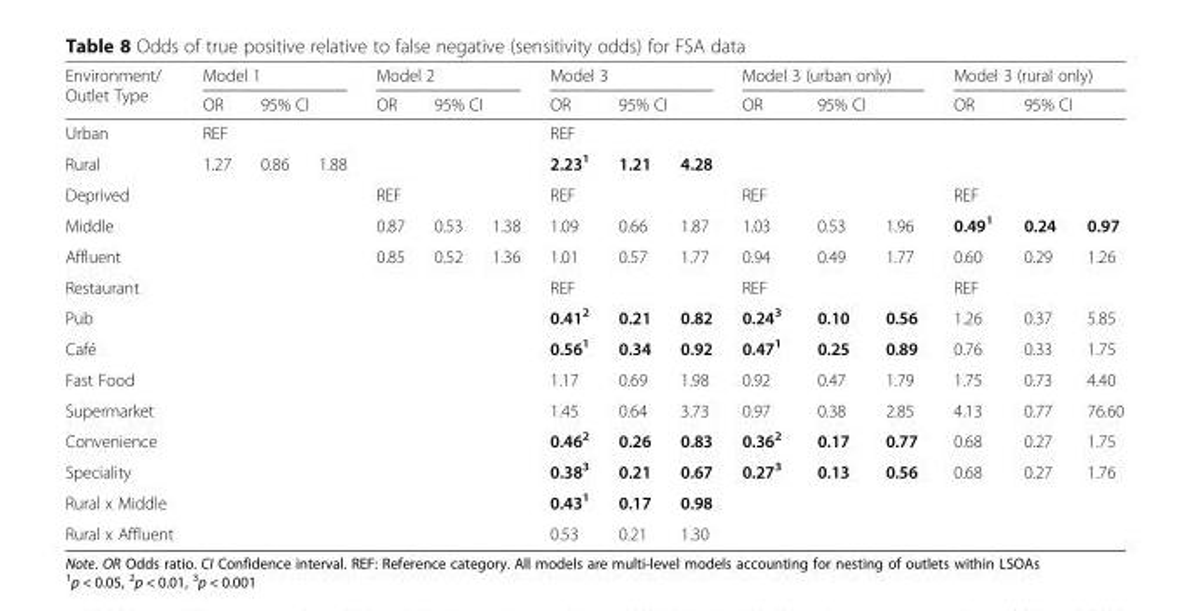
<table><thead><tr><td rowspan="3">Environment/ Outlet Type Urban</td><td colspan="3">Model 1</td><td colspan="3">Model 2</td><td colspan="3">Model 3</td><td colspan="3">Model 3 (urban only)</td><td colspan="3">Model 3 (rural only)</td></tr><tr><td rowspan="2">OR REF</td><td colspan="2">95% CI</td><td rowspan="2">OR</td><td colspan="2">95% CI</td><td rowspan="2">OR REF</td><td colspan="2">95% CI</td><td rowspan="2">OR</td><td colspan="2">95% CI</td><td rowspan="2">OR</td><td colspan="2">95% CI</td></tr><tr><td></td><td></td><td></td><td></td><td></td><td></td><td></td><td></td><td></td><td></td></tr></thead><tbody><tr><td>Rural</td><td>1.27</td><td>0.86</td><td>1.88</td><td></td><td></td><td></td><td>2.23<sup>1</sup></td><td>1.21</td><td>4.28</td><td></td><td></td><td></td><td></td><td></td><td></td></tr><tr><td>Deprived</td><td></td><td></td><td></td><td>REF</td><td></td><td></td><td>REF</td><td></td><td></td><td>REF</td><td></td><td></td><td>REF</td><td></td><td></td></tr><tr><td>Middle</td><td></td><td></td><td></td><td>0.87</td><td>0.53</td><td>1.38</td><td>1.09</td><td>0.66</td><td>1.87</td><td>1.03</td><td>0.53</td><td>1.96</td><td>0.49<sup>1</sup></td><td>0.24</td><td>0.97</td></tr><tr><td>Affluent</td><td></td><td></td><td></td><td>0.85</td><td>0.52</td><td>1.36</td><td>1.01</td><td>0.57</td><td>1.77</td><td>0.94</td><td>0.49</td><td>1.77</td><td>0.60</td><td>0.29</td><td>1.26</td></tr><tr><td>Restaurant</td><td></td><td></td><td></td><td></td><td></td><td></td><td>REF</td><td></td><td></td><td>REF</td><td></td><td></td><td>REF</td><td></td><td></td></tr><tr><td>Pub</td><td></td><td></td><td></td><td></td><td></td><td></td><td>0.41<sup>2</sup></td><td>0.21</td><td>0.82</td><td>0.24<sup>3</sup></td><td>0.10</td><td>0.56</td><td>1.26</td><td>0.37</td><td>5.85</td></tr><tr><td>Café</td><td></td><td></td><td></td><td></td><td></td><td></td><td>0.56<sup>1</sup></td><td>0.34</td><td>0.92</td><td>0.47<sup>1</sup></td><td>0.25</td><td>0.89</td><td>0.76</td><td>0.33</td><td>1.75</td></tr><tr><td>Fast Food</td><td></td><td></td><td></td><td></td><td></td><td></td><td>1.17</td><td>0.69</td><td>1.98</td><td>0.92</td><td>0.47</td><td>1.79</td><td>1.75</td><td>0.73</td><td>4.40</td></tr><tr><td>Supermarket</td><td></td><td></td><td></td><td></td><td></td><td></td><td>1.45</td><td>0.64</td><td>3.73</td><td>0.97</td><td>0.38</td><td>2.85</td><td>4.13</td><td>0.77</td><td>76.60</td></tr><tr><td>Convenience</td><td></td><td></td><td></td><td></td><td></td><td></td><td>0.46<sup>2</sup></td><td>0.26</td><td>0.83</td><td>0.36<sup>2</sup></td><td>0.17</td><td>0.77</td><td>0.68</td><td>0.27</td><td>1.75</td></tr><tr><td>Speciality</td><td></td><td></td><td></td><td></td><td></td><td></td><td>0.38<sup>3</sup></td><td>0.21</td><td>0.67</td><td>0.27<sup>3</sup></td><td>0.13</td><td>0.56</td><td>0.68</td><td>0.27</td><td>1.76</td></tr><tr><td>Rural x Middle</td><td></td><td></td><td></td><td></td><td></td><td></td><td>0.43<sup>1</sup></td><td>0.17</td><td>0.98</td><td></td><td></td><td></td><td></td><td></td><td></td></tr><tr><td>Rural x Affluent</td><td></td><td></td><td></td><td></td><td></td><td></td><td>0.53</td><td>0.21</td><td>1.30</td><td></td><td></td><td></td><td></td><td></td><td></td></tr></tbody></table>